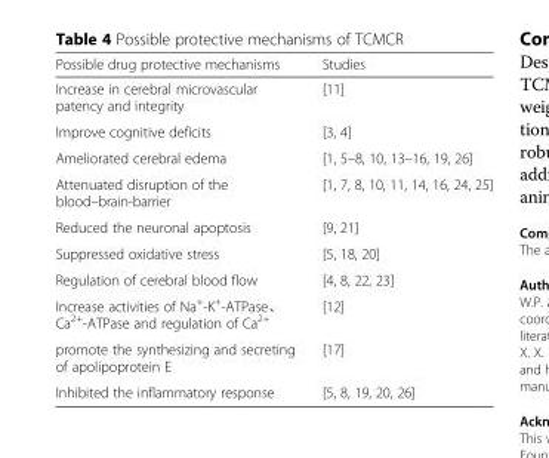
<table><thead><tr><td>Possible drug protective mechanisms</td><td>Studies</td></tr></thead><tbody><tr><td>Increase in cerebral microvascular patency and integrity</td><td>[11]</td></tr><tr><td>Improve cognitive deficits</td><td>[3, 4]</td></tr><tr><td>Ameliorated cerebral edema</td><td>[1, 5–8, 10, 13–16, 19, 26]</td></tr><tr><td>Attenuated disruption of the blood–brain-barrier</td><td>[1, 7, 8, 10, 11, 14, 16, 24, 25]</td></tr><tr><td>Reduced the neuronal apoptosis</td><td>[9, 21]</td></tr><tr><td>Suppressed oxidative stress</td><td>[5, 18, 20]</td></tr><tr><td>Regulation of cerebral blood flow</td><td>[4, 8, 22, 23]</td></tr><tr><td>Increase activities of Na<sup>+</sup>-K<sup>+</sup>-ATPase、 Ca<sup>2+</sup>-ATPase and regulation of Ca<sup>2+</sup></td><td>[12]</td></tr><tr><td>promote the synthesizing and secreting of apolipoprotein E</td><td>[17]</td></tr><tr><td>Inhibited the inflammatory response</td><td>[5, 8, 19, 20, 26]</td></tr></tbody></table>